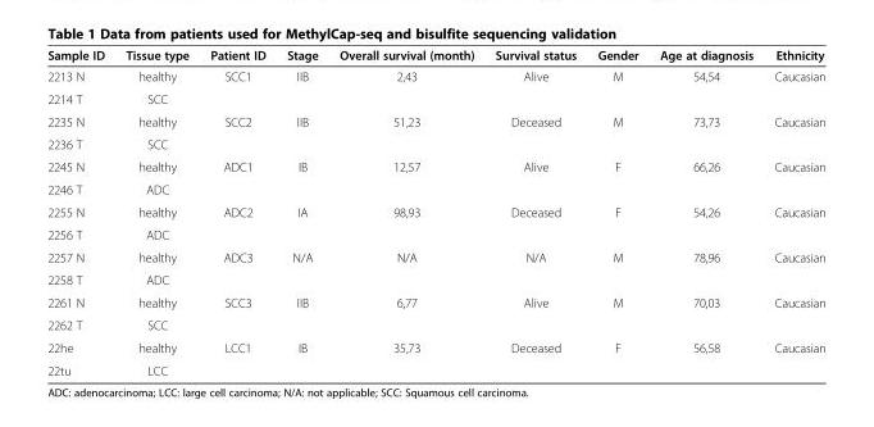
<table><thead><tr><td>Sample ID</td><td>Tissue type</td><td>Patient ID</td><td>Stage</td><td>Overall survival (month)</td><td>Survival status</td><td>Gender</td><td>Age at diagnosis</td><td>Ethnicity</td></tr></thead><tbody><tr><td>2213 N</td><td>healthy</td><td rowspan="2">SCC1</td><td rowspan="2">IIB</td><td rowspan="2">2,43</td><td rowspan="2">Alive</td><td rowspan="2">M</td><td rowspan="2">54,54</td><td rowspan="2">Caucasian</td></tr><tr><td>2214 T</td><td>SCC</td></tr><tr><td>2235 N</td><td>healthy</td><td rowspan="2">SCC2</td><td rowspan="2">IIB</td><td rowspan="2">51,23</td><td rowspan="2">Deceased</td><td rowspan="2">M</td><td rowspan="2">73,73</td><td rowspan="2">Caucasian</td></tr><tr><td>2236 T</td><td>SCC</td></tr><tr><td>2245 N</td><td>healthy</td><td rowspan="2">ADC1</td><td rowspan="2">IB</td><td rowspan="2">12,57</td><td rowspan="2">Alive</td><td rowspan="2">F</td><td rowspan="2">66,26</td><td rowspan="2">Caucasian</td></tr><tr><td>2246 T</td><td>ADC</td></tr><tr><td>2255 N</td><td>healthy</td><td rowspan="2">ADC2</td><td rowspan="2">IA</td><td rowspan="2">98,93</td><td rowspan="2">Deceased</td><td rowspan="2">F</td><td rowspan="2">54,26</td><td rowspan="2">Caucasian</td></tr><tr><td>2256 T</td><td>ADC</td></tr><tr><td>2257 N</td><td>healthy</td><td rowspan="2">ADC3</td><td rowspan="2">N/A</td><td rowspan="2">N/A</td><td rowspan="2">N/A</td><td rowspan="2">M</td><td rowspan="2">78,96</td><td rowspan="2">Caucasian</td></tr><tr><td>2258 T</td><td>ADC</td></tr><tr><td>2261 N</td><td>healthy</td><td rowspan="2">SCC3</td><td rowspan="2">IIB</td><td rowspan="2">6,77</td><td rowspan="2">Alive</td><td rowspan="2">M</td><td rowspan="2">70,03</td><td rowspan="2">Caucasian</td></tr><tr><td>2262 T</td><td>SCC</td></tr><tr><td>22he</td><td>healthy</td><td rowspan="2">LCC1</td><td rowspan="2">IB</td><td rowspan="2">35,73</td><td rowspan="2">Deceased</td><td rowspan="2">F</td><td rowspan="2">56,58</td><td rowspan="2">Caucasian</td></tr><tr><td>22tu</td><td>LCC</td></tr></tbody></table>